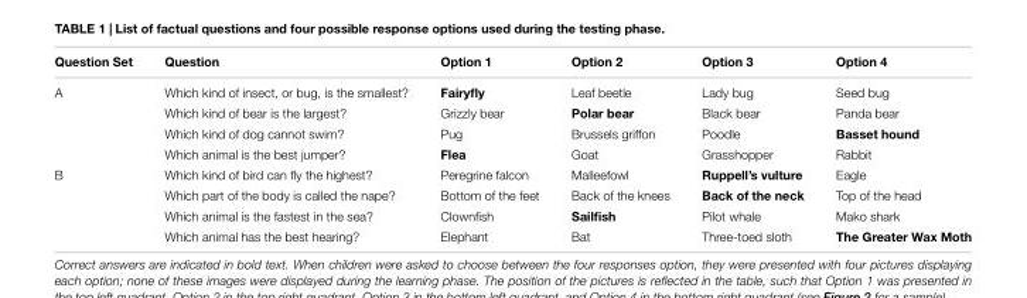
<table><thead><tr><td>Question Set</td><td>Question</td><td>Option 1</td><td>Option 2</td><td>Option 3</td><td>Option 4</td></tr></thead><tbody><tr><td rowspan="4">A</td><td>Which kind of insect, or bug, is the smallest?</td><td>Fairyfly</td><td>Leaf beetle</td><td>Lady bug</td><td>Seed bug</td></tr><tr><td>Which kind of bear is the largest?</td><td>Grizzly bear</td><td>Polar bear</td><td>Black bear</td><td>Panda bear</td></tr><tr><td>Which kind of dog cannot swim?</td><td>Pug</td><td>Brussels griffon</td><td>Poodle</td><td>Basset hound</td></tr><tr><td>Which animal is the best jumper?</td><td>Flea</td><td>Goat</td><td>Grasshopper</td><td>Rabbit</td></tr><tr><td rowspan="4">B</td><td>Which kind of bird can fly the highest?</td><td>Peregrine falcon</td><td>Malleefowl</td><td>Ruppell’s vulture</td><td>Eagle</td></tr><tr><td>Which part of the body is called the nape?</td><td>Bottom of the feet</td><td>Back of the knees</td><td>Back of the neck</td><td>Top of the head</td></tr><tr><td>Which animal is the fastest in the sea?</td><td>Clownfish</td><td>Sailfish</td><td>Pilot whale</td><td>Mako shark</td></tr><tr><td>Which animal has the best hearing?</td><td>Elephant</td><td>Bat</td><td>Three-toed sloth</td><td>The Greater Wax Moth</td></tr></tbody></table>